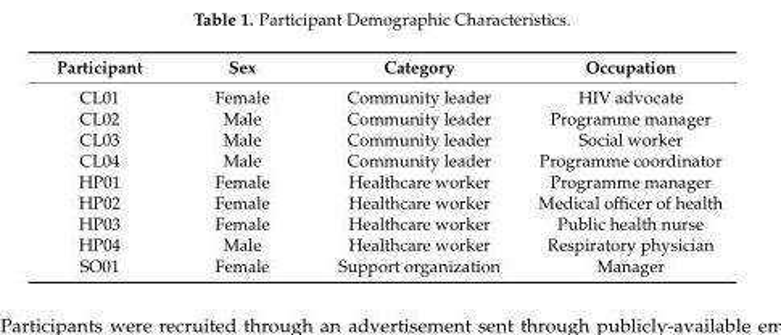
<table><thead><tr><td>Participant</td><td>Sex</td><td>Category</td><td>Occupation</td></tr></thead><tbody><tr><td>CL01</td><td>Female</td><td>Community leader</td><td>HIV advocate</td></tr><tr><td>CL02</td><td>Male</td><td>Community leader</td><td>Programme manager</td></tr><tr><td>CL03</td><td>Male</td><td>Community leader</td><td>Social worker</td></tr><tr><td>CL04</td><td>Male</td><td>Community leader</td><td>Programme coordinator</td></tr><tr><td>HP01</td><td>Female</td><td>Healthcare worker</td><td>Programme manager</td></tr><tr><td>HP02</td><td>Female</td><td>Healthcare worker</td><td>Medical officer of health</td></tr><tr><td>HP03</td><td>Female</td><td>Healthcare worker</td><td>Public health nurse</td></tr><tr><td>HP04</td><td>Male</td><td>Healthcare worker</td><td>Respiratory physician</td></tr><tr><td>SO01</td><td>Female</td><td>Support organization</td><td>Manager</td></tr></tbody></table>